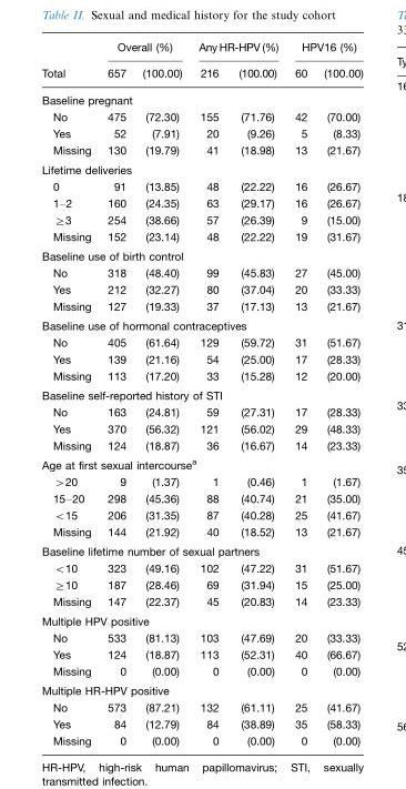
<table><thead><tr><td rowspan="2">Total</td><td colspan="2">Overall (%)</td><td colspan="2">Any HR-HPV (%)</td><td colspan="2">HPV16 (%)</td></tr><tr><td>657</td><td>(100.00)</td><td>216</td><td>(100.00)</td><td>60</td><td>(100.00)</td></tr></thead><tbody><tr><td colspan="7">Baseline pregnant</td></tr><tr><td>No</td><td>475</td><td>(72.30)</td><td>155</td><td>(71.76)</td><td>42</td><td>(70.00)</td></tr><tr><td>Yes</td><td>52</td><td>(7.91)</td><td>20</td><td>(9.26)</td><td>5</td><td>(8.33)</td></tr><tr><td>Missing</td><td>130</td><td>(19.79)</td><td>41</td><td>(18.98)</td><td>13</td><td>(21.67)</td></tr><tr><td colspan="7">Lifetime deliveries</td></tr><tr><td>0</td><td>91</td><td>(13.85)</td><td>48</td><td>(22.22)</td><td>16</td><td>(26.67)</td></tr><tr><td>1–2</td><td>160</td><td>(24.35)</td><td>63</td><td>(29.17)</td><td>16</td><td>(26.67)</td></tr><tr><td>≥3</td><td>254</td><td>(38.66)</td><td>57</td><td>(26.39)</td><td>9</td><td>(15.00)</td></tr><tr><td>Missing</td><td>152</td><td>(23.14)</td><td>48</td><td>(22.22)</td><td>19</td><td>(31.67)</td></tr><tr><td colspan="7">Baseline use of birth control</td></tr><tr><td>No</td><td>318</td><td>(48.40)</td><td>99</td><td>(45.83)</td><td>27</td><td>(45.00)</td></tr><tr><td>Yes</td><td>212</td><td>(32.27)</td><td>80</td><td>(37.04)</td><td>20</td><td>(33.33)</td></tr><tr><td>Missing</td><td>127</td><td>(19.33)</td><td>37</td><td>(17.13)</td><td>13</td><td>(21.67)</td></tr><tr><td colspan="7">Baseline use of hormonal contraceptives</td></tr><tr><td>No</td><td>405</td><td>(61.64)</td><td>129</td><td>(59.72)</td><td>31</td><td>(51.67)</td></tr><tr><td>Yes</td><td>139</td><td>(21.16)</td><td>54</td><td>(25.00)</td><td>17</td><td>(28.33)</td></tr><tr><td>Missing</td><td>113</td><td>(17.20)</td><td>33</td><td>(15.28)</td><td>12</td><td>(20.00)</td></tr><tr><td colspan="7">Baseline self-reported history of STI</td></tr><tr><td>No</td><td>163</td><td>(24.81)</td><td>59</td><td>(27.31)</td><td>17</td><td>(28.33)</td></tr><tr><td>Yes</td><td>370</td><td>(56.32)</td><td>121</td><td>(56.02)</td><td>29</td><td>(48.33)</td></tr><tr><td>Missing</td><td>124</td><td>(18.87)</td><td>36</td><td>(16.67)</td><td>14</td><td>(23.33)</td></tr><tr><td colspan="7">Age at first sexual intercourse<sup>a</sup></td></tr><tr><td>&gt;20</td><td>9</td><td>(1.37)</td><td>1</td><td>(0.46)</td><td>1</td><td>(1.67)</td></tr><tr><td>15–20</td><td>298</td><td>(45.36)</td><td>88</td><td>(40.74)</td><td>21</td><td>(35.00)</td></tr><tr><td>&lt;15</td><td>206</td><td>(31.35)</td><td>87</td><td>(40.28)</td><td>25</td><td>(41.67)</td></tr><tr><td>Missing</td><td>144</td><td>(21.92)</td><td>40</td><td>(18.52)</td><td>13</td><td>(21.67)</td></tr><tr><td colspan="7">Baseline lifetime number of sexual partners</td></tr><tr><td>&lt;10</td><td>323</td><td>(49.16)</td><td>102</td><td>(47.22)</td><td>31</td><td>(51.67)</td></tr><tr><td>≥10</td><td>187</td><td>(28.46)</td><td>69</td><td>(31.94)</td><td>15</td><td>(25.00)</td></tr><tr><td>Missing</td><td>147</td><td>(22.37)</td><td>45</td><td>(20.83)</td><td>14</td><td>(23.33)</td></tr><tr><td colspan="7">Multiple HPV positive</td></tr><tr><td>No</td><td>533</td><td>(81.13)</td><td>103</td><td>(47.69)</td><td>20</td><td>(33.33)</td></tr><tr><td>Yes</td><td>124</td><td>(18.87)</td><td>113</td><td>(52.31)</td><td>40</td><td>(66.67)</td></tr><tr><td>Missing</td><td>0</td><td>(0.00)</td><td>0</td><td>(0.00)</td><td>0</td><td>(0.00)</td></tr><tr><td colspan="7">Multiple HR-HPV positive</td></tr><tr><td>No</td><td>573</td><td>(87.21)</td><td>132</td><td>(61.11)</td><td>25</td><td>(41.67)</td></tr><tr><td>Yes</td><td>84</td><td>(12.79)</td><td>84</td><td>(38.89)</td><td>35</td><td>(58.33)</td></tr><tr><td>Missing</td><td>0</td><td>(0.00)</td><td>0</td><td>(0.00)</td><td>0</td><td>(0.00)</td></tr></tbody></table>